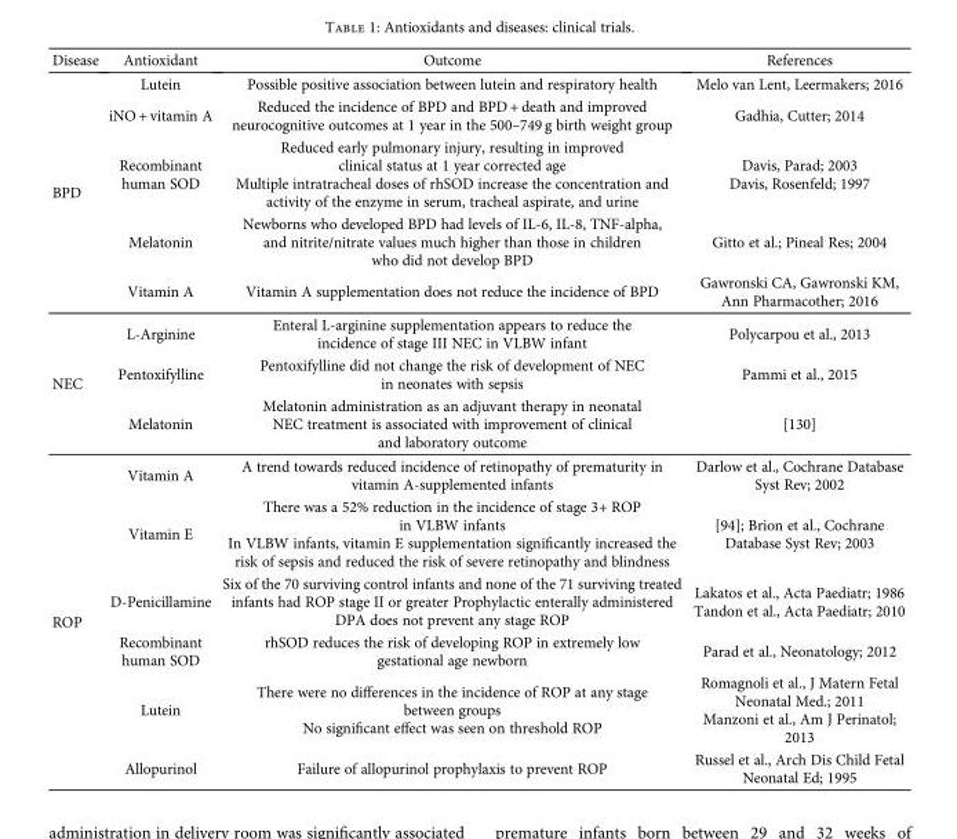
<table><thead><tr><td>Disease</td><td>Antioxidant</td><td>Outcome</td><td>References</td></tr></thead><tbody><tr><td rowspan="5">BPD</td><td>Lutein</td><td>Possible positive association between lutein and respiratory health</td><td>Melo van Lent, Leermakers; 2016</td></tr><tr><td>iNO + vitamin A</td><td>Reduced the incidence of BPD and BPD + death and improved neurocognitive outcomes at 1 year in the 500–749 g birth weight group</td><td>Gadhia, Cutter; 2014</td></tr><tr><td>Recombinant human SOD</td><td>Reduced early pulmonary injury, resulting in improved clinical status at 1 year corrected age Multiple intratracheal doses of rhSOD increase the concentration and activity of the enzyme in serum, tracheal aspirate, and urine</td><td>Davis, Parad; 2003 Davis, Rosenfeld; 1997</td></tr><tr><td>Melatonin</td><td>Newborns who developed BPD had levels of IL-6, IL-8, TNF-alpha, and nitrite/nitrate values much higher than those in children who did not develop BPD</td><td>Gitto et al.; Pineal Res; 2004</td></tr><tr><td>Vitamin A</td><td>Vitamin A supplementation does not reduce the incidence of BPD</td><td>Gawronski CA, Gawronski KM, Ann Pharmacother; 2016</td></tr><tr><td rowspan="3">NEC</td><td>L-Arginine</td><td>Enteral L-arginine supplementation appears to reduce the incidence of stage III NEC in VLBW infant</td><td>Polycarpou et al., 2013</td></tr><tr><td>Pentoxifylline</td><td>Pentoxifylline did not change the risk of development of NEC in neonates with sepsis</td><td>Pammi et al., 2015</td></tr><tr><td>Melatonin</td><td>Melatonin administration as an adjuvant therapy in neonatal NEC treatment is associated with improvement of clinical and laboratory outcome</td><td>[130]</td></tr><tr><td rowspan="6">ROP</td><td>Vitamin A</td><td>A trend towards reduced incidence of retinopathy of prematurity in vitamin A-supplemented infants</td><td>Darlow et al., Cochrane Database Syst Rev; 2002</td></tr><tr><td>Vitamin E</td><td>There was a 52% reduction in the incidence of stage 3+ ROP in VLBW infants In VLBW infants, vitamin E supplementation significantly increased the risk of sepsis and reduced the risk of severe retinopathy and blindness</td><td>[94]; Brion et al., Cochrane Database Syst Rev; 2003</td></tr><tr><td>D-Penicillamine</td><td>Six of the 70 surviving control infants and none of the 71 surviving treated infants had ROP stage II or greater Prophylactic enterally administered DPA does not prevent any stage ROP</td><td>Lakatos et al., Acta Paediatr; 1986 Tandon et al., Acta Paediatr; 2010</td></tr><tr><td>Recombinant human SOD</td><td>rhSOD reduces the risk of developing ROP in extremely low gestational age newborn</td><td>Parad et al., Neonatology; 2012</td></tr><tr><td>Lutein</td><td>There were no differences in the incidence of ROP at any stage between groups No significant effect was seen on threshold ROP</td><td>Romagnoli et al., J Matern Fetal Neonatal Med.; 2011 Manzoni et al., Am J Perinatol; 2013</td></tr><tr><td>Allopurinol</td><td>Failure of allopurinol prophylaxis to prevent ROP</td><td>Russel et al., Arch Dis Child Fetal Neonatal Ed; 1995</td></tr></tbody></table>